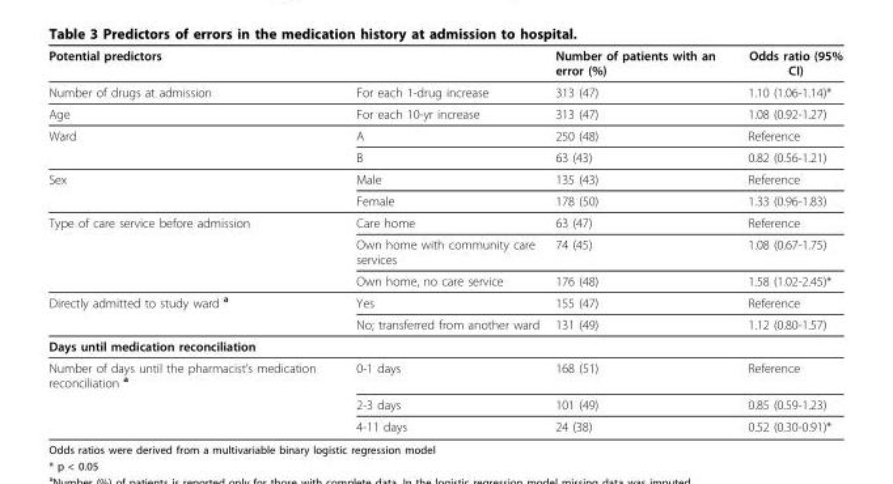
<table><thead><tr><td>Potential predictors</td><td></td><td>Number of patients with an error (%)</td><td>Odds ratio (95% CI)</td></tr></thead><tbody><tr><td>Number of drugs at admission</td><td>For each 1-drug increase</td><td>313 (47)</td><td>1.10 (1.06-1.14)*</td></tr><tr><td>Age</td><td>For each 10-yr increase</td><td>313 (47)</td><td>1.08 (0.92-1.27)</td></tr><tr><td rowspan="2">Ward</td><td>A</td><td>250 (48)</td><td>Reference</td></tr><tr><td>B</td><td>63 (43)</td><td>0.82 (0.56-1.21)</td></tr><tr><td rowspan="2">Sex</td><td>Male</td><td>135 (43)</td><td>Reference</td></tr><tr><td>Female</td><td>178 (50)</td><td>1.33 (0.96-1.83)</td></tr><tr><td rowspan="3">Type of care service before admission</td><td>Care home</td><td>63 (47)</td><td>Reference</td></tr><tr><td>Own home with community care services</td><td>74 (45)</td><td>1.08 (0.67-1.75)</td></tr><tr><td>Own home, no care service</td><td>176 (48)</td><td>1.58 (1.02-2.45)*</td></tr><tr><td rowspan="2">Directly admitted to study ward <sup>a</sup></td><td>Yes</td><td>155 (47)</td><td>Reference</td></tr><tr><td>No; transferred from another ward</td><td>131 (49)</td><td>1.12 (0.80-1.57)</td></tr><tr><td colspan="4">Days until medication reconciliation</td></tr><tr><td rowspan="3">Number of days until the pharmacist’s medication reconciliation <sup>a</sup></td><td>0-1 days</td><td>168 (51)</td><td>Reference</td></tr><tr><td>2-3 days</td><td>101 (49)</td><td>0.85 (0.59-1.23)</td></tr><tr><td>4-11 days</td><td>24 (38)</td><td>0.52 (0.30-0.91)*</td></tr></tbody></table>